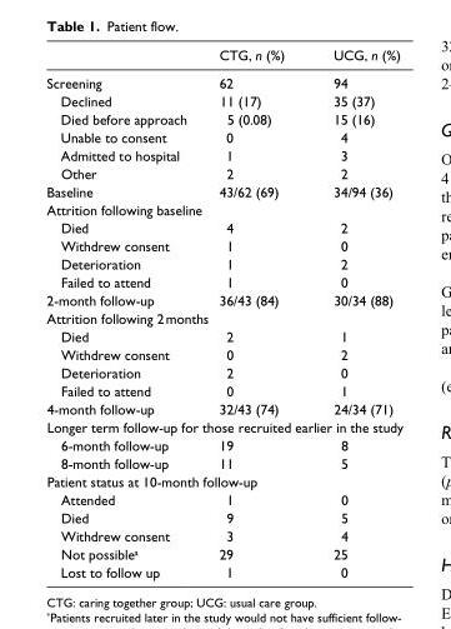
<table><thead><tr><td></td><td>CTG, n (%)</td><td>UCG, n (%)</td></tr></thead><tbody><tr><td>Screening</td><td>62</td><td>94</td></tr><tr><td>Declined</td><td>11 (17)</td><td>35 (37)</td></tr><tr><td>Died before approach</td><td>5 (0.08)</td><td>15 (16)</td></tr><tr><td>Unable to consent</td><td>0</td><td>4</td></tr><tr><td>Admitted to hospital</td><td>1</td><td>3</td></tr><tr><td>Other</td><td>2</td><td>2</td></tr><tr><td>Baseline</td><td>43/62 (69)</td><td>34/94 (36)</td></tr><tr><td colspan="3">Attrition following baseline</td></tr><tr><td>Died</td><td>4</td><td>2</td></tr><tr><td>Withdrew consent</td><td>1</td><td>0</td></tr><tr><td>Deterioration</td><td>1</td><td>2</td></tr><tr><td>Failed to attend</td><td>1</td><td>0</td></tr><tr><td>2-month follow-up</td><td>36/43 (84)</td><td>30/34 (88)</td></tr><tr><td colspan="3">Attrition following 2 months</td></tr><tr><td>Died</td><td>2</td><td>1</td></tr><tr><td>Withdrew consent</td><td>0</td><td>2</td></tr><tr><td>Deterioration</td><td>2</td><td>0</td></tr><tr><td>Failed to attend</td><td>0</td><td>1</td></tr><tr><td>4-month follow-up</td><td>32/43 (74)</td><td>24/34 (71)</td></tr><tr><td colspan="3">Longer term follow-up for those recruited earlier in the study</td></tr><tr><td>6-month follow-up</td><td>19</td><td>8</td></tr><tr><td>8-month follow-up</td><td>11</td><td>5</td></tr><tr><td colspan="3">Patient status at 10-month follow-up</td></tr><tr><td>Attended</td><td>1</td><td>0</td></tr><tr><td>Died</td><td>9</td><td>5</td></tr><tr><td>Withdrew consent</td><td>3</td><td>4</td></tr><tr><td>Not possible<sup>a</sup></td><td>29</td><td>25</td></tr><tr><td>Lost to follow up</td><td>1</td><td>0</td></tr></tbody></table>